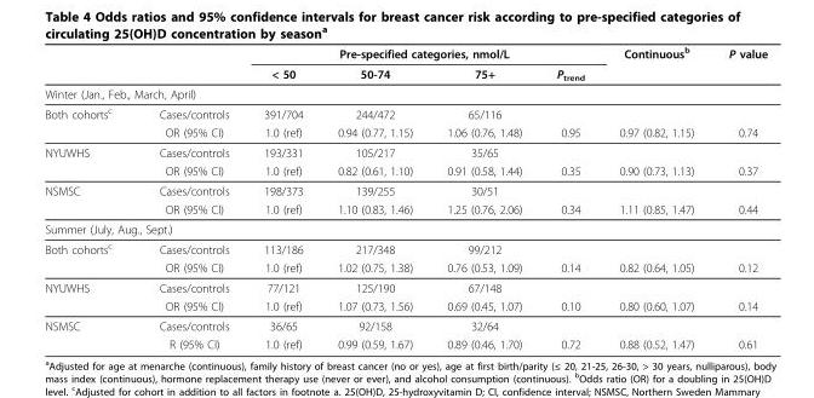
<table><thead><tr><td rowspan="2"></td><td rowspan="2"></td><td colspan="4">Pre-specified categories, nmol/L</td><td rowspan="2">Continuous<sup>b</sup></td><td rowspan="2">P value</td></tr><tr><td>&lt; 50</td><td>50-74</td><td>75+</td><td>P<sub>trend</sub></td></tr></thead><tbody><tr><td colspan="8">Winter (Jan., Feb., March, April)</td></tr><tr><td rowspan="2">Both cohorts<sup>c</sup></td><td>Cases/controls</td><td>391/704</td><td>244/472</td><td>65/116</td><td></td><td></td><td></td></tr><tr><td>OR (95% CI)</td><td>1.0 (ref)</td><td>0.94 (0.77, 1.15)</td><td>1.06 (0.76, 1.48)</td><td>0.95</td><td>0.97 (0.82, 1.15)</td><td>0.74</td></tr><tr><td rowspan="2">NYUWHS</td><td>Cases/controls</td><td>193/331</td><td>105/217</td><td>35/65</td><td></td><td></td><td></td></tr><tr><td>OR (95% CI)</td><td>1.0 (ref)</td><td>0.82 (0.61, 1.10)</td><td>0.91 (0.58, 1.44)</td><td>0.35</td><td>0.90 (0.73, 1.13)</td><td>0.37</td></tr><tr><td rowspan="2">NSMSC</td><td>Cases/controls</td><td>198/373</td><td>139/255</td><td>30/51</td><td></td><td></td><td></td></tr><tr><td>OR (95% CI)</td><td>1.0 (ref)</td><td>1.10 (0.83, 1.46)</td><td>1.25 (0.76, 2.06)</td><td>0.34</td><td>1.11 (0.85, 1.47)</td><td>0.44</td></tr><tr><td colspan="8">Summer (July, Aug., Sept.)</td></tr><tr><td rowspan="2">Both cohorts<sup>c</sup></td><td>Cases/controls</td><td>113/186</td><td>217/348</td><td>99/212</td><td></td><td></td><td></td></tr><tr><td>OR (95% CI)</td><td>1.0 (ref)</td><td>1.02 (0.75, 1.38)</td><td>0.76 (0.53, 1.09)</td><td>0.14</td><td>0.82 (0.64, 1.05)</td><td>0.12</td></tr><tr><td rowspan="2">NYUWHS</td><td>Cases/controls</td><td>77/121</td><td>125/190</td><td>67/148</td><td></td><td></td><td></td></tr><tr><td>OR (95% CI)</td><td>1.0 (ref)</td><td>1.07 (0.73, 1.56)</td><td>0.69 (0.45, 1.07)</td><td>0.10</td><td>0.80 (0.60, 1.07)</td><td>0.14</td></tr><tr><td rowspan="2">NSMSC</td><td>Cases/controls</td><td>36/65</td><td>92/158</td><td>32/64</td><td></td><td></td><td></td></tr><tr><td>R (95% CI)</td><td>1.0 (ref)</td><td>0.99 (0.59, 1.67)</td><td>0.89 (0.46, 1.70)</td><td>0.72</td><td>0.88 (0.52, 1.47)</td><td>0.61</td></tr></tbody></table>